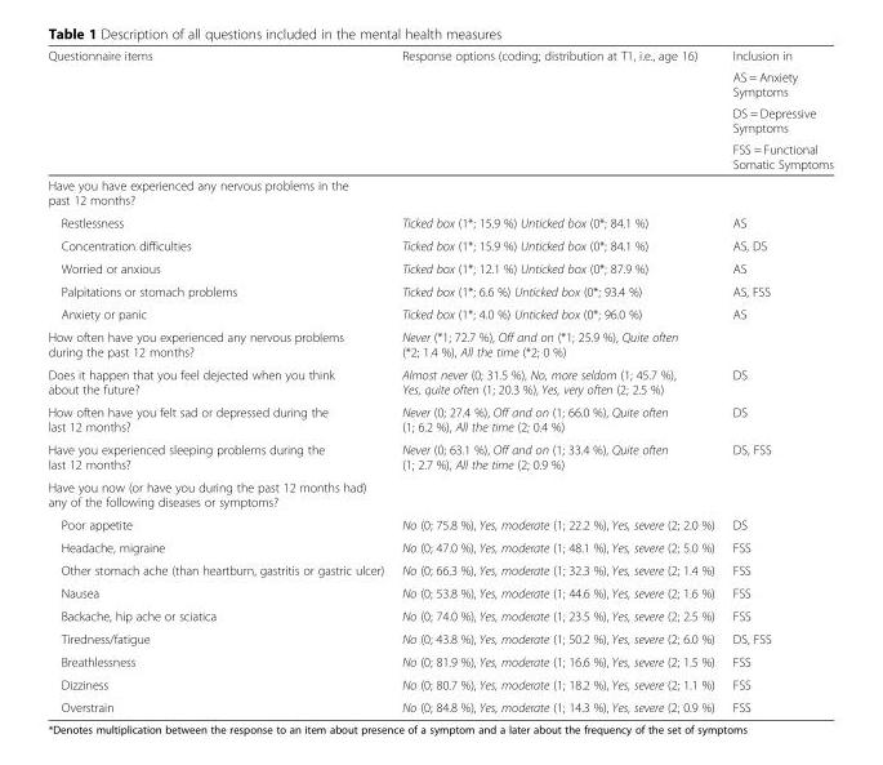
<table><thead><tr><td rowspan="4">Questionnaire items</td><td rowspan="4">Response options (coding; distribution at T1, i.e., age 16)</td><td rowspan="4">Inclusion in AS = Anxiety Symptoms DS = Depressive Symptoms FSS = Functional Somatic Symptoms</td></tr><tr></tr><tr></tr><tr></tr></thead><tbody><tr><td colspan="3">Have you have experienced any nervous problems in the past 12 months?</td></tr><tr><td>Restlessness</td><td>Ticked box (1*; 15.9 %) Unticked box (0*; 84.1 %)</td><td>AS</td></tr><tr><td>Concentration difficulties</td><td>Ticked box (1*; 15.9 %) Unticked box (0*; 84.1 %)</td><td>AS, DS</td></tr><tr><td>Worried or anxious</td><td>Ticked box (1*; 12.1 %) Unticked box (0*; 87.9 %)</td><td>AS</td></tr><tr><td>Palpitations or stomach problems</td><td>Ticked box (1*; 6.6 %) Unticked box (0*; 93.4 %)</td><td>AS, FSS</td></tr><tr><td>Anxiety or panic</td><td>Ticked box (1*; 4.0 %) Unticked box (0*; 96.0 %)</td><td>AS</td></tr><tr><td>How often have you experienced any nervous problems during the past 12 months?</td><td>Never (*1; 72.7 %), Off and on (*1; 25.9 %), Quite often (*2; 1.4 %), All the time (*2; 0 %)</td><td></td></tr><tr><td>Does it happen that you feel dejected when you think about the future?</td><td>Almost never (0; 31.5 %), No, more seldom (1; 45.7 %), Yes, quite often (1; 20.3 %), Yes, very often (2; 2.5 %)</td><td>DS</td></tr><tr><td>How often have you felt sad or depressed during the last 12 months?</td><td>Never (0; 27.4 %), Off and on (1; 66.0 %), Quite often (1; 6.2 %), All the time (2; 0.4 %)</td><td>DS</td></tr><tr><td>Have you experienced sleeping problems during the last 12 months?</td><td>Never (0; 63.1 %), Off and on (1; 33.4 %), Quite often (1; 2.7 %), All the time (2; 0.9 %)</td><td>DS, FSS</td></tr><tr><td colspan="3">Have you now (or have you during the past 12 months had) any of the following diseases or symptoms?</td></tr><tr><td>Poor appetite</td><td>No (0; 75.8 %), Yes, moderate (1; 22.2 %), Yes, severe (2; 2.0 %)</td><td>DS</td></tr><tr><td>Headache, migraine</td><td>No (0; 47.0 %), Yes, moderate (1; 48.1 %), Yes, severe (2; 5.0 %)</td><td>FSS</td></tr><tr><td>Other stomach ache (than heartburn, gastritis or gastric ulcer)</td><td>No (0; 66.3 %), Yes, moderate (1; 32.3 %), Yes, severe (2; 1.4 %)</td><td>FSS</td></tr><tr><td>Nausea</td><td>No (0; 53.8 %), Yes, moderate (1; 44.6 %), Yes, severe (2; 1.6 %)</td><td>FSS</td></tr><tr><td>Backache, hip ache or sciatica</td><td>No (0; 74.0 %), Yes, moderate (1; 23.5 %), Yes, severe (2; 2.5 %)</td><td>FSS</td></tr><tr><td>Tiredness/fatigue</td><td>No (0; 43.8 %), Yes, moderate (1; 50.2 %), Yes, severe (2; 6.0 %)</td><td>DS, FSS</td></tr><tr><td>Breathlessness</td><td>No (0; 81.9 %), Yes, moderate (1; 16.6 %), Yes, severe (2; 1.5 %)</td><td>FSS</td></tr><tr><td>Dizziness</td><td>No (0; 80.7 %), Yes, moderate (1; 18.2 %), Yes, severe (2; 1.1 %)</td><td>FSS</td></tr><tr><td>Overstrain</td><td>No (0; 84.8 %), Yes, moderate (1; 14.3 %), Yes, severe (2; 0.9 %)</td><td>FSS</td></tr></tbody></table>